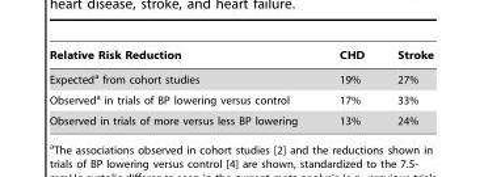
<table><thead><tr><td>Relative Risk Reduction</td><td>CHD</td><td>Stroke</td></tr></thead><tbody><tr><td>Expected<sup>a</sup> from cohort studies</td><td>19%</td><td>27%</td></tr><tr><td>Observed<sup>a</sup> in trials of BP lowering versus control</td><td>17%</td><td>33%</td></tr><tr><td>Observed in trials of more versus less BP lowering</td><td>13%</td><td>24%</td></tr></tbody></table>